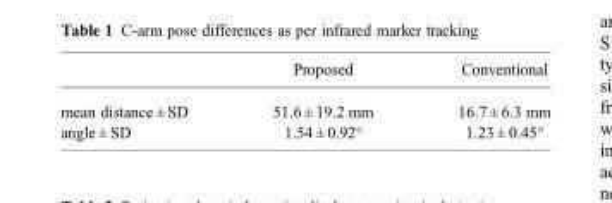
<table><thead><tr><td></td><td>Proposed</td><td>Conventional</td></tr></thead><tbody><tr><td>mean distance ± SD</td><td>51.6 ± 19.2 mm</td><td>16.7 ± 6.3 mm</td></tr><tr><td>angle ± SD</td><td>1.54 ± 0.92°</td><td>1.23 ± 0.45°</td></tr></tbody></table>